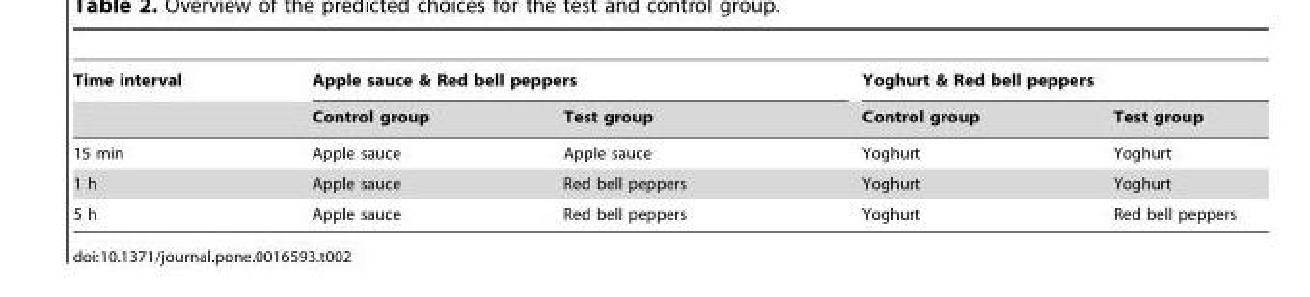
<table><thead><tr><td rowspan="2">Time interval</td><td colspan="2">Apple sauce &amp; Red bell peppers</td><td colspan="2">Yoghurt &amp; Red bell peppers</td></tr><tr><td>Control group</td><td>Test group</td><td>Control group</td><td>Test group</td></tr></thead><tbody><tr><td>15 min</td><td>Apple sauce</td><td>Apple sauce</td><td>Yoghurt</td><td>Yoghurt</td></tr><tr><td>1 h</td><td>Apple sauce</td><td>Red bell peppers</td><td>Yoghurt</td><td>Yoghurt</td></tr><tr><td>5 h</td><td>Apple sauce</td><td>Red bell peppers</td><td>Yoghurt</td><td>Red bell peppers</td></tr></tbody></table>